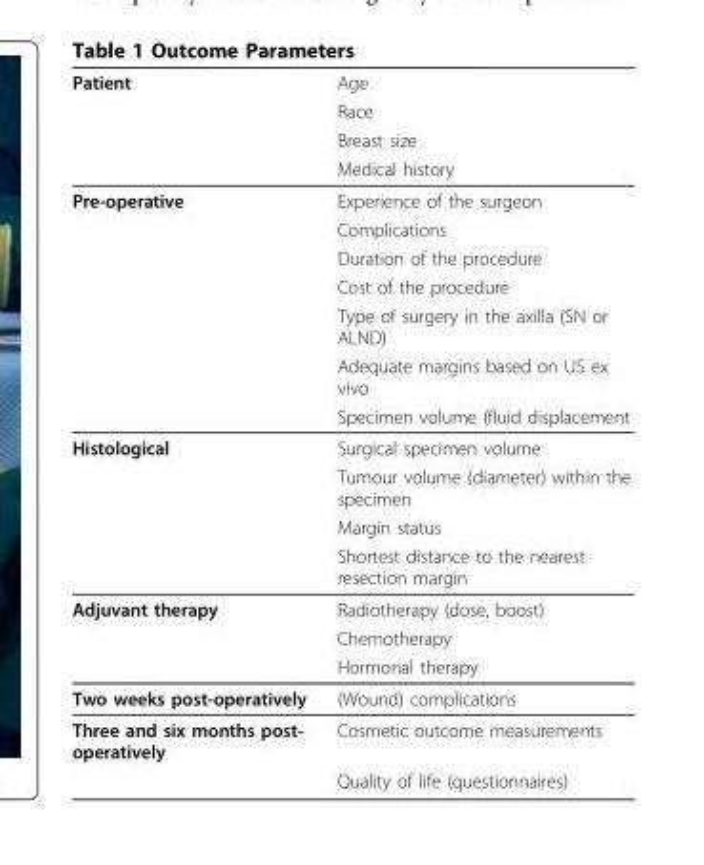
<table><thead><tr><td rowspan="4">Patient</td><td rowspan="4">Age Race Breast size Medical history</td></tr><tr></tr><tr></tr><tr></tr></thead><tbody><tr><td rowspan="7">Pre-operative</td><td>Experience of the surgeon</td></tr><tr><td>Complications</td></tr><tr><td>Duration of the procedure</td></tr><tr><td>Cost of the procedure</td></tr><tr><td>Type of surgery in the axilla (SN or ALND)</td></tr><tr><td>Adequate margins based on US ex vivo</td></tr><tr><td>Specimen volume (fluid displacement</td></tr><tr><td rowspan="4">Histological</td><td>Surgical specimen volume</td></tr><tr><td>Tumour volume (diameter) within the specimen</td></tr><tr><td>Margin status</td></tr><tr><td>Shortest distance to the nearest resection margin</td></tr><tr><td rowspan="3">Adjuvant therapy</td><td>Radiotherapy (dose, boost)</td></tr><tr><td>Chemotherapy</td></tr><tr><td>Hormonal therapy</td></tr><tr><td>Two weeks post-operatively</td><td>(Wound) complications</td></tr><tr><td rowspan="2">Three and six months post- operatively</td><td>Cosmetic outcome measurements</td></tr><tr><td>Quality of life (questionnaires)</td></tr></tbody></table>